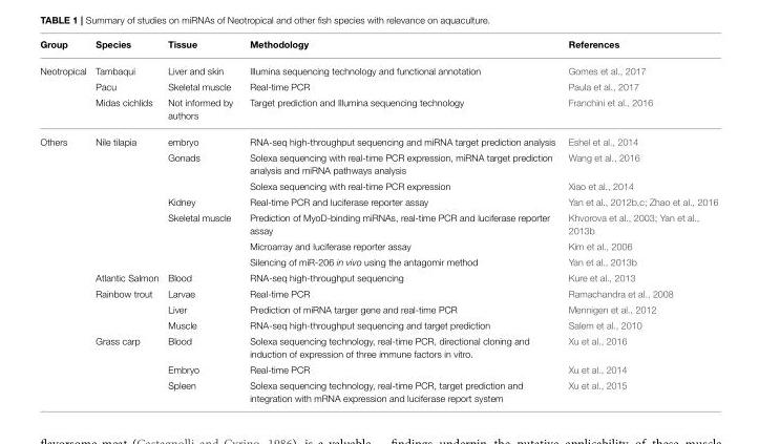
<table><thead><tr><td>Group</td><td>Species</td><td>Tissue</td><td>Methodology</td><td>References</td></tr></thead><tbody><tr><td rowspan="3">Neotropical</td><td>Tambaqui</td><td>Liver and skin</td><td>Illumina sequencing technology and functional annotation</td><td>Gomes et al., 2017</td></tr><tr><td>Pacu</td><td>Skeletal muscle</td><td>Real-time PCR</td><td>Paula et al., 2017</td></tr><tr><td>Midas cichlids</td><td>Not informed by authors</td><td>Target prediction and Illumina sequencing technology</td><td>Franchini et al., 2016</td></tr><tr><td rowspan="14">Others</td><td>Nile tilapia</td><td>embryo</td><td>RNA-seq high-throughput sequencing and miRNA target prediction analysis</td><td>Eshel et al., 2014</td></tr><tr><td></td><td>Gonads</td><td>Solexa sequencing with real-time PCR expression, miRNA target prediction analysis and miRNA pathways analysis</td><td>Wang et al., 2016</td></tr><tr><td></td><td></td><td>Solexa sequencing with real-time PCR expression</td><td>Xiao et al., 2014</td></tr><tr><td></td><td>Kidney</td><td>Real-time PCR and luciferase reporter assay</td><td>Yan et al., 2012b,c; Zhao et al., 2016</td></tr><tr><td></td><td>Skeletal muscle</td><td>Prediction of MyoD-binding miRNAs, real-time PCR and luciferase reporter assay</td><td>Khvorova et al., 2003; Yan et al., 2013b</td></tr><tr><td></td><td></td><td>Microarray and luciferase reporter assay</td><td>Kim et al., 2006</td></tr><tr><td></td><td></td><td>Silencing of miR-206 in vivo using the antagomir method</td><td>Yan et al., 2013b</td></tr><tr><td>Atlantic Salmon</td><td>Blood</td><td>RNA-seq high-throughput sequencing</td><td>Kure et al., 2013</td></tr><tr><td>Rainbow trout</td><td>Larvae</td><td>Real-time PCR</td><td>Ramachandra et al., 2008</td></tr><tr><td></td><td>Liver</td><td>Prediction of miRNA targer gene and real-time PCR</td><td>Mennigen et al., 2012</td></tr><tr><td></td><td>Muscle</td><td>RNA-seq high-throughput sequencing and target prediction</td><td>Salem et al., 2010</td></tr><tr><td>Grass carp</td><td>Blood</td><td>Solexa sequencing technology, real-time PCR, directional cloning and induction of expression of three immune factors in vitro.</td><td>Xu et al., 2016</td></tr><tr><td></td><td>Embryo</td><td>Real-time PCR</td><td>Xu et al., 2014</td></tr><tr><td></td><td>Spleen</td><td>Solexa sequencing technology, real-time PCR, target prediction and integration with mRNA expression and luciferase report system</td><td>Xu et al., 2015</td></tr></tbody></table>